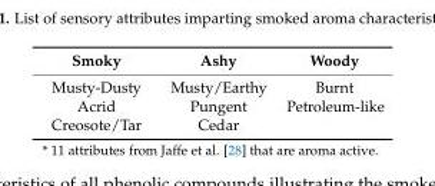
<table><thead><tr><td>Smoky</td><td>Ashy</td><td>Woody</td></tr></thead><tbody><tr><td>Musty-Dusty</td><td>Musty/Earthy</td><td>Burnt</td></tr><tr><td>Acrid</td><td>Pungent</td><td>Petroleum-like</td></tr><tr><td>Creosote/Tar</td><td>Cedar</td><td></td></tr></tbody></table>